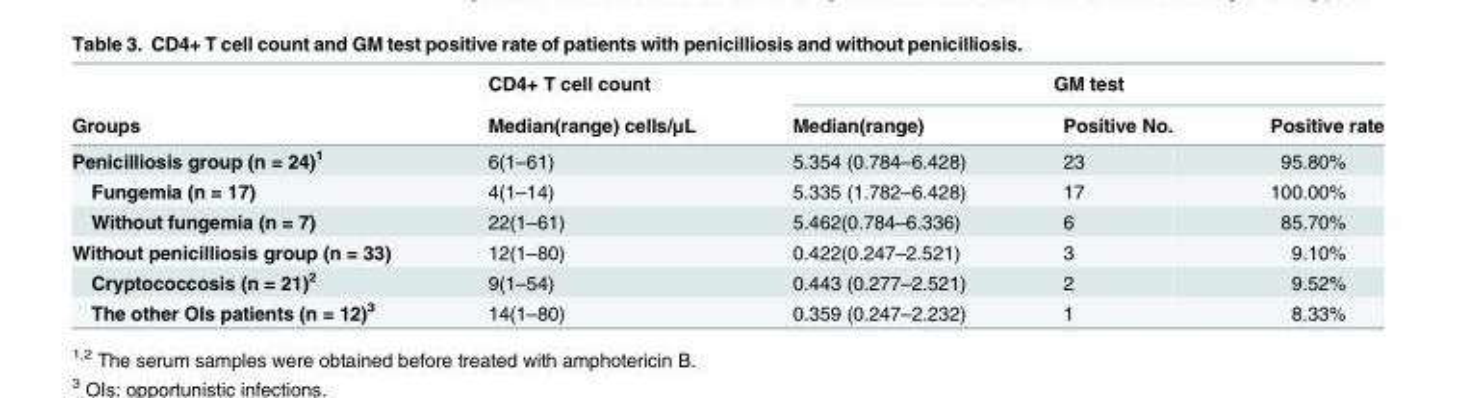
<table><thead><tr><td rowspan="2">Groups</td><td rowspan="2">CD4+ T cell count Median(range) cells/μL</td><td colspan="3">GM test</td></tr><tr><td>Median(range)</td><td>Positive No.</td><td>Positive rate</td></tr></thead><tbody><tr><td>Penicilliosis group (n = 24)<sup>1</sup></td><td>6(1–61)</td><td>5.354 (0.784–6.428)</td><td>23</td><td>95.80%</td></tr><tr><td>Fungemia (n = 17)</td><td>4(1–14)</td><td>5.335 (1.782–6.428)</td><td>17</td><td>100.00%</td></tr><tr><td>Without fungemia (n = 7)</td><td>22(1–61)</td><td>5.462(0.784–6.336)</td><td>6</td><td>85.70%</td></tr><tr><td>Without penicilliosis group (n = 33)</td><td>12(1–80)</td><td>0.422(0.247–2.521)</td><td>3</td><td>9.10%</td></tr><tr><td>Cryptococcosis (n = 21)<sup>2</sup></td><td>9(1–54)</td><td>0.443 (0.277–2.521)</td><td>2</td><td>9.52%</td></tr><tr><td>The other OIs patients (n = 12)<sup>3</sup></td><td>14(1–80)</td><td>0.359 (0.247–2.232)</td><td>1</td><td>8.33%</td></tr></tbody></table>